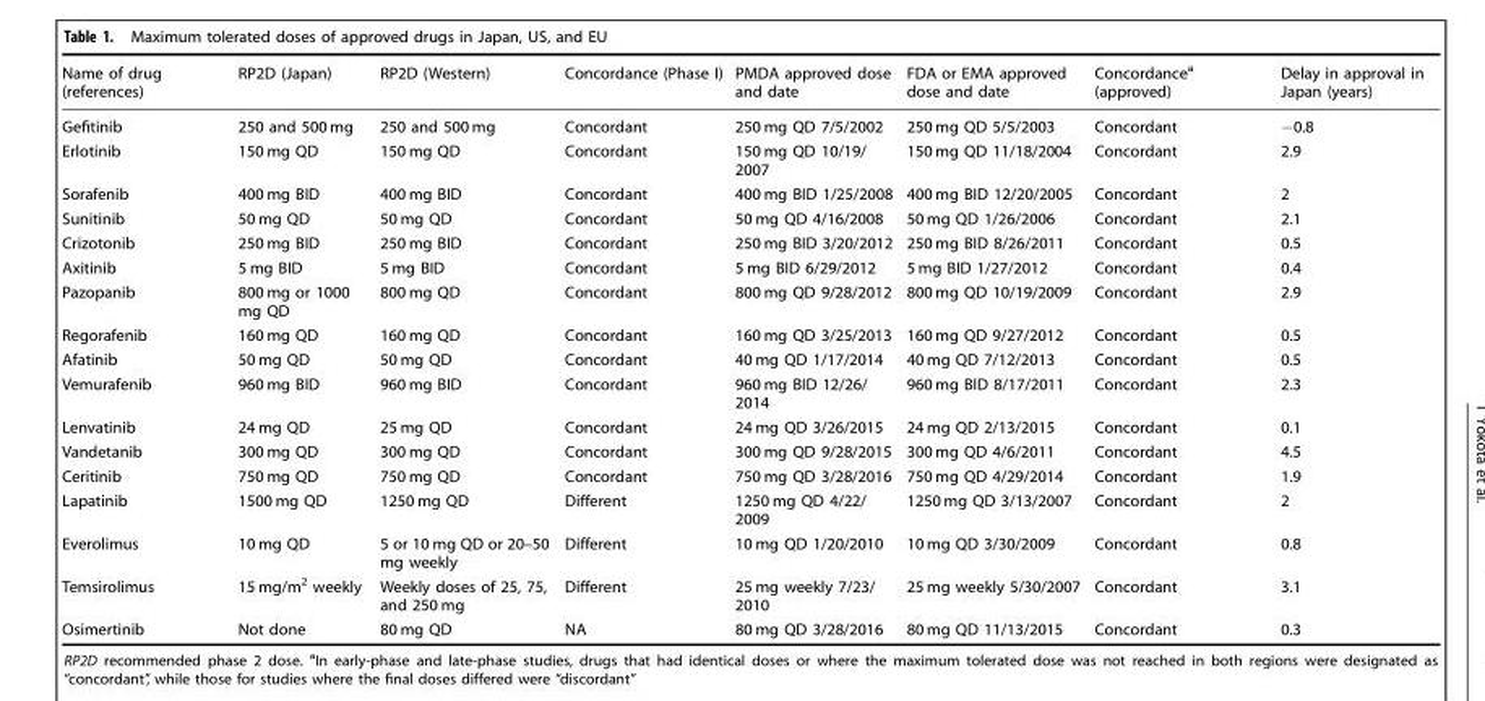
<table><thead><tr><td>Name of drug (references)</td><td>RP2D (Japan)</td><td>RP2D (Western)</td><td>Concordance (Phase I)</td><td>PMDA approved dose and date</td><td>FDA or EMA approved dose and date</td><td>Concordance<sup>a</sup> (approved)</td><td>Delay in approval in Japan (years)</td></tr></thead><tbody><tr><td>Gefitinib</td><td>250 and 500 mg</td><td>250 and 500 mg</td><td>Concordant</td><td>250 mg QD 7/5/2002</td><td>250 mg QD 5/5/2003</td><td>Concordant</td><td>−0.8</td></tr><tr><td>Erlotinib</td><td>150 mg QD</td><td>150 mg QD</td><td>Concordant</td><td>150 mg QD 10/19/ 2007</td><td>150 mg QD 11/18/2004</td><td>Concordant</td><td>2.9</td></tr><tr><td>Sorafenib</td><td>400 mg BID</td><td>400 mg BID</td><td>Concordant</td><td>400 mg BID 1/25/2008</td><td>400 mg BID 12/20/2005</td><td>Concordant</td><td>2</td></tr><tr><td>Sunitinib</td><td>50 mg QD</td><td>50 mg QD</td><td>Concordant</td><td>50 mg QD 4/16/2008</td><td>50 mg QD 1/26/2006</td><td>Concordant</td><td>2.1</td></tr><tr><td>Crizotonib</td><td>250 mg BID</td><td>250 mg BID</td><td>Concordant</td><td>250 mg BID 3/20/2012</td><td>250 mg BID 8/26/2011</td><td>Concordant</td><td>0.5</td></tr><tr><td>Axitinib</td><td>5 mg BID</td><td>5 mg BID</td><td>Concordant</td><td>5 mg BID 6/29/2012</td><td>5 mg BID 1/27/2012</td><td>Concordant</td><td>0.4</td></tr><tr><td>Pazopanib</td><td>800 mg or 1000 mg QD</td><td>800 mg QD</td><td>Concordant</td><td>800 mg QD 9/28/2012</td><td>800 mg QD 10/19/2009</td><td>Concordant</td><td>2.9</td></tr><tr><td>Regorafenib</td><td>160 mg QD</td><td>160 mg QD</td><td>Concordant</td><td>160 mg QD 3/25/2013</td><td>160 mg QD 9/27/2012</td><td>Concordant</td><td>0.5</td></tr><tr><td>Afatinib</td><td>50 mg QD</td><td>50 mg QD</td><td>Concordant</td><td>40 mg QD 1/17/2014</td><td>40 mg QD 7/12/2013</td><td>Concordant</td><td>0.5</td></tr><tr><td>Vemurafenib</td><td>960 mg BID</td><td>960 mg BID</td><td>Concordant</td><td>960 mg BID 12/26/ 2014</td><td>960 mg BID 8/17/2011</td><td>Concordant</td><td>2.3</td></tr><tr><td>Lenvatinib</td><td>24 mg QD</td><td>25 mg QD</td><td>Concordant</td><td>24 mg QD 3/26/2015</td><td>24 mg QD 2/13/2015</td><td>Concordant</td><td>0.1</td></tr><tr><td>Vandetanib</td><td>300 mg QD</td><td>300 mg QD</td><td>Concordant</td><td>300 mg QD 9/28/2015</td><td>300 mg QD 4/6/2011</td><td>Concordant</td><td>4.5</td></tr><tr><td>Ceritinib</td><td>750 mg QD</td><td>750 mg QD</td><td>Concordant</td><td>750 mg QD 3/28/2016</td><td>750 mg QD 4/29/2014</td><td>Concordant</td><td>1.9</td></tr><tr><td>Lapatinib</td><td>1500 mg QD</td><td>1250 mg QD</td><td>Different</td><td>1250 mg QD 4/22/ 2009</td><td>1250 mg QD 3/13/2007</td><td>Concordant</td><td>2</td></tr><tr><td>Everolimus</td><td>10 mg QD</td><td>5 or 10 mg QD or 20–50 mg weekly</td><td>Different</td><td>10 mg QD 1/20/2010</td><td>10 mg QD 3/30/2009</td><td>Concordant</td><td>0.8</td></tr><tr><td>Temsirolimus</td><td>15 mg/m<sup>2</sup> weekly</td><td>Weekly doses of 25, 75, and 250 mg</td><td>Different</td><td>25 mg weekly 7/23/ 2010</td><td>25 mg weekly 5/30/2007</td><td>Concordant</td><td>3.1</td></tr><tr><td>Osimertinib</td><td>Not done</td><td>80 mg QD</td><td>NA</td><td>80 mg QD 3/28/2016</td><td>80 mg QD 11/13/2015</td><td>Concordant</td><td>0.3</td></tr></tbody></table>